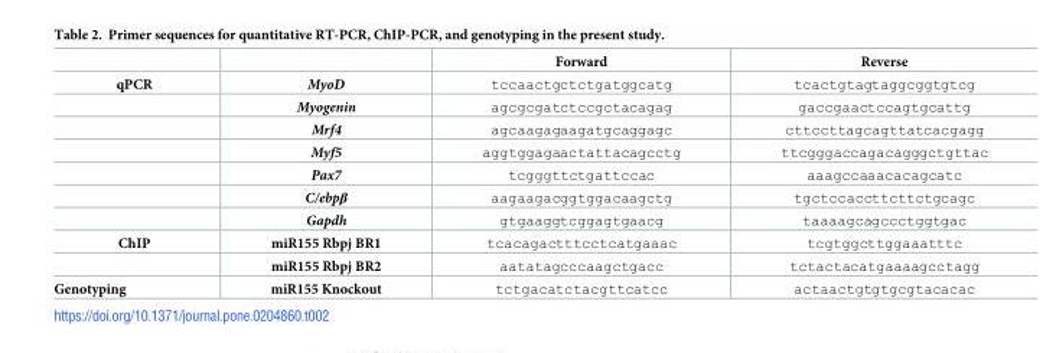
<table><thead><tr><td></td><td></td><td>Forward</td><td>Reverse</td></tr></thead><tbody><tr><td rowspan="7">qPCR</td><td>MyoD</td><td>tccaactgctctgatggcatg</td><td>tcactgtagtaggcggtgtcg</td></tr><tr><td>Myogenin</td><td>agcgcgatctccgctacagag</td><td>gaccgaactccagtgcattg</td></tr><tr><td>Mrf4</td><td>agcaagagaagatgcaggagc</td><td>cttccttagcagttatcacgagg</td></tr><tr><td>Myf5</td><td>aggtggagaactattacagcctg</td><td>ttcgggaccagacagggctgttac</td></tr><tr><td>Pax7</td><td>tcgggttctgattccac</td><td>aaagccaaacacagcatc</td></tr><tr><td>C/ebpβ</td><td>aagaagacggtggacaagctg</td><td>tgctccaccttcttctgcagc</td></tr><tr><td>Gapdh</td><td>gtgaaggtcggagtgaacg</td><td>taaaagcagccctggtgac</td></tr><tr><td rowspan="2">ChIP</td><td>miR155 Rbpj BR1</td><td>tcacagactttcctcatgaaac</td><td>tcgtggcttggaaatttc</td></tr><tr><td>miR155 Rbpj BR2</td><td>aatatagcccaagctgacc</td><td>tctactacatgaaaagcctagg</td></tr><tr><td>Genotyping</td><td>miR155 Knockout</td><td>tctgacatctacgttcatcc</td><td>actaactgtgtgcgtacacac</td></tr></tbody></table>